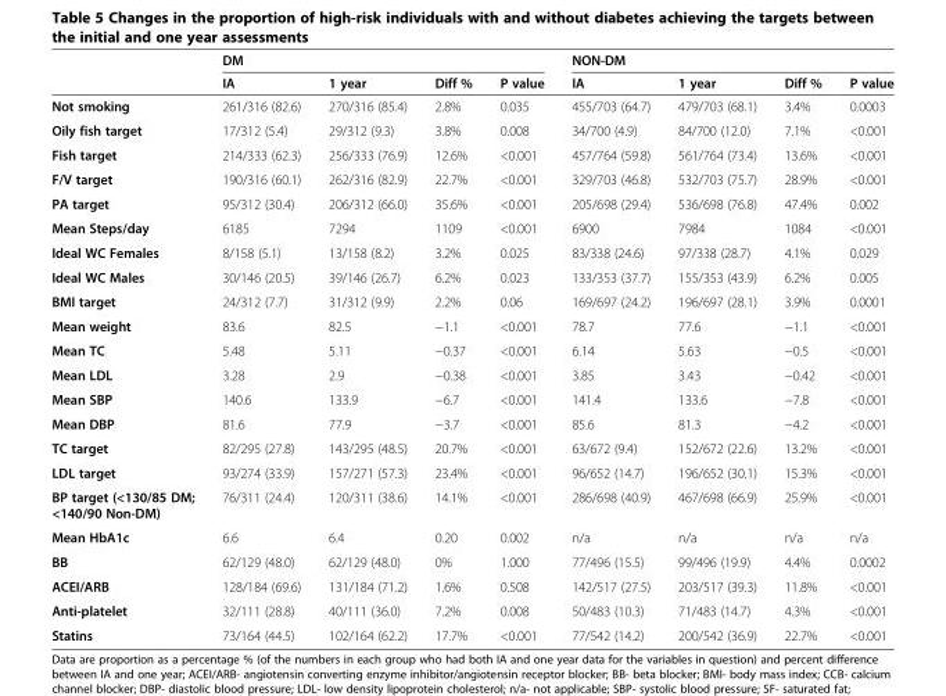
<table><thead><tr><td rowspan="2"></td><td colspan="4">DM</td><td colspan="4">NON-DM</td></tr><tr><td>IA</td><td>1 year</td><td>Diff %</td><td>P value</td><td>IA</td><td>1 year</td><td>Diff %</td><td>P value</td></tr></thead><tbody><tr><td>Not smoking</td><td>261/316 (82.6)</td><td>270/316 (85.4)</td><td>2.8%</td><td>0.035</td><td>455/703 (64.7)</td><td>479/703 (68.1)</td><td>3.4%</td><td>0.0003</td></tr><tr><td>Oily fish target</td><td>17/312 (5.4)</td><td>29/312 (9.3)</td><td>3.8%</td><td>0.008</td><td>34/700 (4.9)</td><td>84/700 (12.0)</td><td>7.1%</td><td>&lt;0.001</td></tr><tr><td>Fish target</td><td>214/333 (62.3)</td><td>256/333 (76.9)</td><td>12.6%</td><td>&lt;0.001</td><td>457/764 (59.8)</td><td>561/764 (73.4)</td><td>13.6%</td><td>&lt;0.001</td></tr><tr><td>F/V target</td><td>190/316 (60.1)</td><td>262/316 (82.9)</td><td>22.7%</td><td>&lt;0.001</td><td>329/703 (46.8)</td><td>532/703 (75.7)</td><td>28.9%</td><td>&lt;0.001</td></tr><tr><td>PA target</td><td>95/312 (30.4)</td><td>206/312 (66.0)</td><td>35.6%</td><td>&lt;0.001</td><td>205/698 (29.4)</td><td>536/698 (76.8)</td><td>47.4%</td><td>0.002</td></tr><tr><td>Mean Steps/day</td><td>6185</td><td>7294</td><td>1109</td><td>&lt;0.001</td><td>6900</td><td>7984</td><td>1084</td><td>&lt;0.001</td></tr><tr><td>Ideal WC Females</td><td>8/158 (5.1)</td><td>13/158 (8.2)</td><td>3.2%</td><td>0.025</td><td>83/338 (24.6)</td><td>97/338 (28.7)</td><td>4.1%</td><td>0.029</td></tr><tr><td>Ideal WC Males</td><td>30/146 (20.5)</td><td>39/146 (26.7)</td><td>6.2%</td><td>0.023</td><td>133/353 (37.7)</td><td>155/353 (43.9)</td><td>6.2%</td><td>0.005</td></tr><tr><td>BMI target</td><td>24/312 (7.7)</td><td>31/312 (9.9)</td><td>2.2%</td><td>0.06</td><td>169/697 (24.2)</td><td>196/697 (28.1)</td><td>3.9%</td><td>0.0001</td></tr><tr><td>Mean weight</td><td>83.6</td><td>82.5</td><td>−1.1</td><td>&lt;0.001</td><td>78.7</td><td>77.6</td><td>−1.1</td><td>&lt;0.001</td></tr><tr><td>Mean TC</td><td>5.48</td><td>5.11</td><td>−0.37</td><td>&lt;0.001</td><td>6.14</td><td>5.63</td><td>−0.5</td><td>&lt;0.001</td></tr><tr><td>Mean LDL</td><td>3.28</td><td>2.9</td><td>−0.38</td><td>&lt;0.001</td><td>3.85</td><td>3.43</td><td>−0.42</td><td>&lt;0.001</td></tr><tr><td>Mean SBP</td><td>140.6</td><td>133.9</td><td>−6.7</td><td>&lt;0.001</td><td>141.4</td><td>133.6</td><td>−7.8</td><td>&lt;0.001</td></tr><tr><td>Mean DBP</td><td>81.6</td><td>77.9</td><td>−3.7</td><td>&lt;0.001</td><td>85.6</td><td>81.3</td><td>−4.2</td><td>&lt;0.001</td></tr><tr><td>TC target</td><td>82/295 (27.8)</td><td>143/295 (48.5)</td><td>20.7%</td><td>&lt;0.001</td><td>63/672 (9.4)</td><td>152/672 (22.6)</td><td>13.2%</td><td>&lt;0.001</td></tr><tr><td>LDL target</td><td>93/274 (33.9)</td><td>157/271 (57.3)</td><td>23.4%</td><td>&lt;0.001</td><td>96/652 (14.7)</td><td>196/652 (30.1)</td><td>15.3%</td><td>&lt;0.001</td></tr><tr><td>BP target (&lt;130/85 DM; &lt;140/90 Non-DM)</td><td>76/311 (24.4)</td><td>120/311 (38.6)</td><td>14.1%</td><td>&lt;0.001</td><td>286/698 (40.9)</td><td>467/698 (66.9)</td><td>25.9%</td><td>&lt;0.001</td></tr><tr><td>Mean HbA1c</td><td>6.6</td><td>6.4</td><td>0.20</td><td>0.002</td><td>n/a</td><td>n/a</td><td>n/a</td><td>n/a</td></tr><tr><td>BB</td><td>62/129 (48.0)</td><td>62/129 (48.0)</td><td>0%</td><td>1.000</td><td>77/496 (15.5)</td><td>99/496 (19.9)</td><td>4.4%</td><td>0.0002</td></tr><tr><td>ACEI/ARB</td><td>128/184 (69.6)</td><td>131/184 (71.2)</td><td>1.6%</td><td>0.508</td><td>142/517 (27.5)</td><td>203/517 (39.3)</td><td>11.8%</td><td>&lt;0.001</td></tr><tr><td>Anti-platelet</td><td>32/111 (28.8)</td><td>40/111 (36.0)</td><td>7.2%</td><td>0.008</td><td>50/483 (10.3)</td><td>71/483 (14.7)</td><td>4.3%</td><td>&lt;0.001</td></tr><tr><td>Statins</td><td>73/164 (44.5)</td><td>102/164 (62.2)</td><td>17.7%</td><td>&lt;0.001</td><td>77/542 (14.2)</td><td>200/542 (36.9)</td><td>22.7%</td><td>&lt;0.001</td></tr></tbody></table>